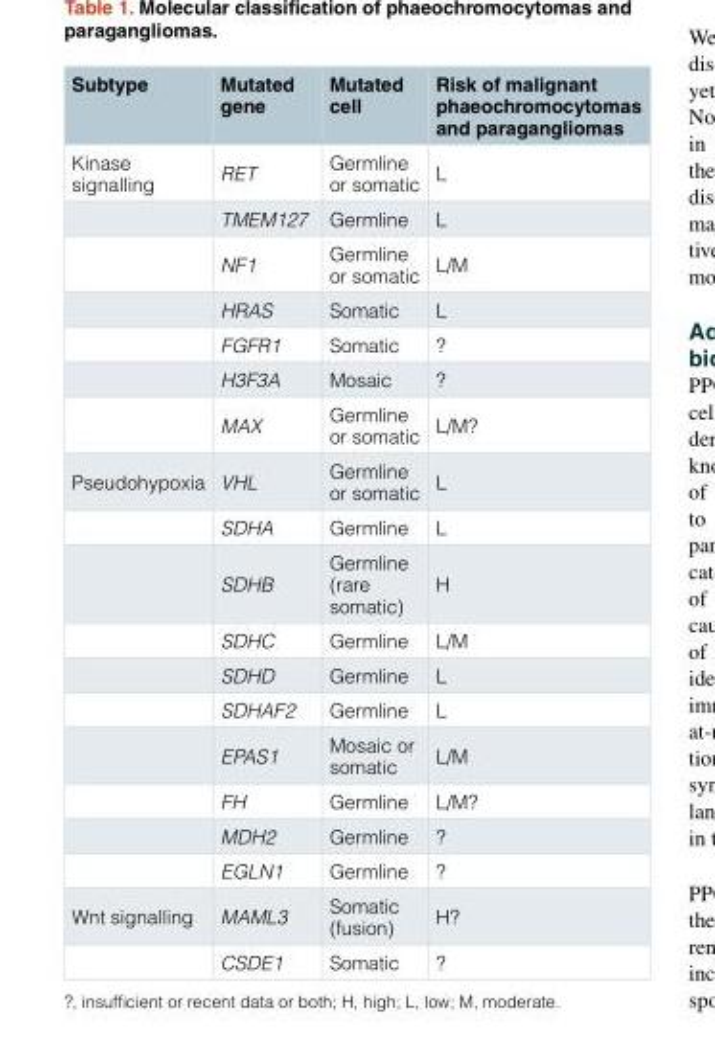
<table><thead><tr><td>Subtype</td><td>Mutated gene</td><td>Mutated cell</td><td>Risk of malignant phaeochromocytomas and paragangliomas</td></tr></thead><tbody><tr><td rowspan="7">Kinase signalling</td><td>RET</td><td>Germline or somatic</td><td>L</td></tr><tr><td>TMEM127</td><td>Germline</td><td>L</td></tr><tr><td>NF1</td><td>Germline or somatic</td><td>L/M</td></tr><tr><td>HRAS</td><td>Somatic</td><td>L</td></tr><tr><td>FGFR1</td><td>Somatic</td><td>?</td></tr><tr><td>H3F3A</td><td>Mosaic</td><td>?</td></tr><tr><td>MAX</td><td>Germline or somatic</td><td>L/M?</td></tr><tr><td rowspan="10">Pseudohypoxia</td><td>VHL</td><td>Germline or somatic</td><td>L</td></tr><tr><td>SDHA</td><td>Germline</td><td>L</td></tr><tr><td>SDHB</td><td>Germline (rare somatic)</td><td>H</td></tr><tr><td>SDHC</td><td>Germline</td><td>L/M</td></tr><tr><td>SDHD</td><td>Germline</td><td>L</td></tr><tr><td>SDHAF2</td><td>Germline</td><td>L</td></tr><tr><td>EPAS1</td><td>Mosaic or somatic</td><td>L/M</td></tr><tr><td>FH</td><td>Germline</td><td>L/M?</td></tr><tr><td>MDH2</td><td>Germline</td><td>?</td></tr><tr><td>EGLN1</td><td>Germline</td><td>?</td></tr><tr><td rowspan="2">Wnt signalling</td><td>MAML3</td><td>Somatic (fusion)</td><td>H?</td></tr><tr><td>CSDE1</td><td>Somatic</td><td>?</td></tr></tbody></table>